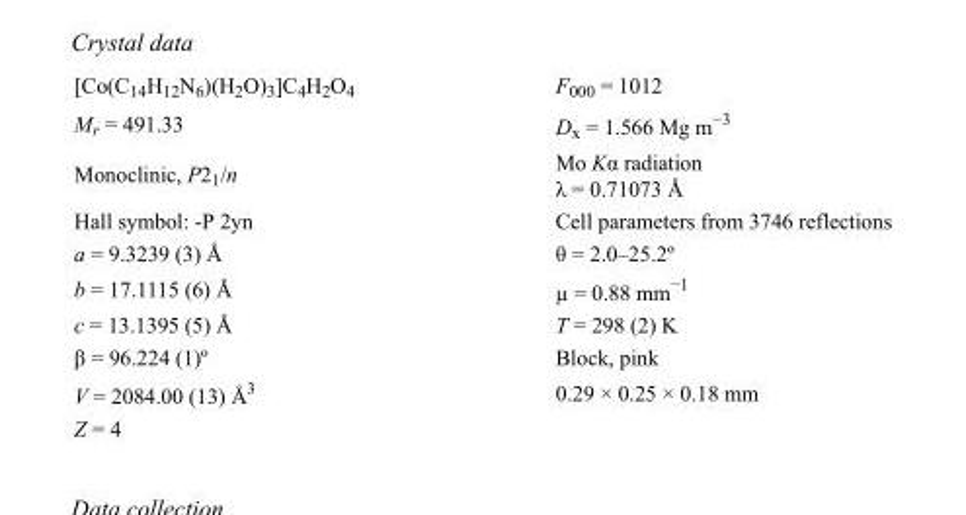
<table><tbody><tr><td>[Co(C<sub>14</sub>H<sub>12</sub>N<sub>6</sub>)(H<sub>2</sub>O)<sub>3</sub>]C<sub>4</sub>H<sub>2</sub>O<sub>4</sub></td><td>F000 = 1012</td></tr><tr><td>M<sub>r</sub> = 491.33</td><td>D<sub>x</sub> = 1.566 Mg m<sup>−3</sup></td></tr><tr><td>Monoclinic, P2<sub>1</sub>/n</td><td>Mo Kα radiation λ = 0.71073 Å</td></tr><tr><td>Hall symbol: -P 2yn</td><td>Cell parameters from 3746 reflections</td></tr><tr><td>a = 9.3239 (3) Å</td><td>θ = 2.0–25.2º</td></tr><tr><td>b = 17.1115 (6) Å</td><td>µ = 0.88 mm<sup>−1</sup></td></tr><tr><td>c = 13.1395 (5) Å</td><td>T = 298 (2) K</td></tr><tr><td>β = 96.224 (1)º</td><td>Block, pink</td></tr><tr><td>V = 2084.00 (13) Å<sup>3</sup></td><td>0.29 × 0.25 × 0.18 mm</td></tr><tr><td>Z = 4</td><td></td></tr></tbody></table>